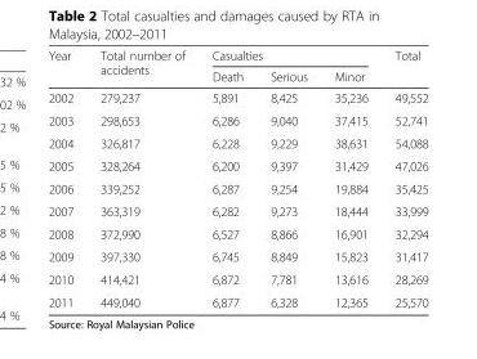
<table><thead><tr><td rowspan="2">Year</td><td rowspan="2">Total number of accidents</td><td colspan="3">Casualties</td><td rowspan="2">Total</td></tr><tr><td>Death</td><td>Serious</td><td>Minor</td></tr></thead><tbody><tr><td>2002</td><td>279,237</td><td>5,891</td><td>8,425</td><td>35,236</td><td>49,552</td></tr><tr><td>2003</td><td>298,653</td><td>6,286</td><td>9,040</td><td>37,415</td><td>52,741</td></tr><tr><td>2004</td><td>326,817</td><td>6,228</td><td>9,229</td><td>38,631</td><td>54,088</td></tr><tr><td>2005</td><td>328,264</td><td>6,200</td><td>9,397</td><td>31,429</td><td>47,026</td></tr><tr><td>2006</td><td>339,252</td><td>6,287</td><td>9,254</td><td>19,884</td><td>35,425</td></tr><tr><td>2007</td><td>363,319</td><td>6,282</td><td>9,273</td><td>18,444</td><td>33,999</td></tr><tr><td>2008</td><td>372,990</td><td>6,527</td><td>8,866</td><td>16,901</td><td>32,294</td></tr><tr><td>2009</td><td>397,330</td><td>6,745</td><td>8,849</td><td>15,823</td><td>31,417</td></tr><tr><td>2010</td><td>414,421</td><td>6,872</td><td>7,781</td><td>13,616</td><td>28,269</td></tr><tr><td>2011</td><td>449,040</td><td>6,877</td><td>6,328</td><td>12,365</td><td>25,570</td></tr></tbody></table>